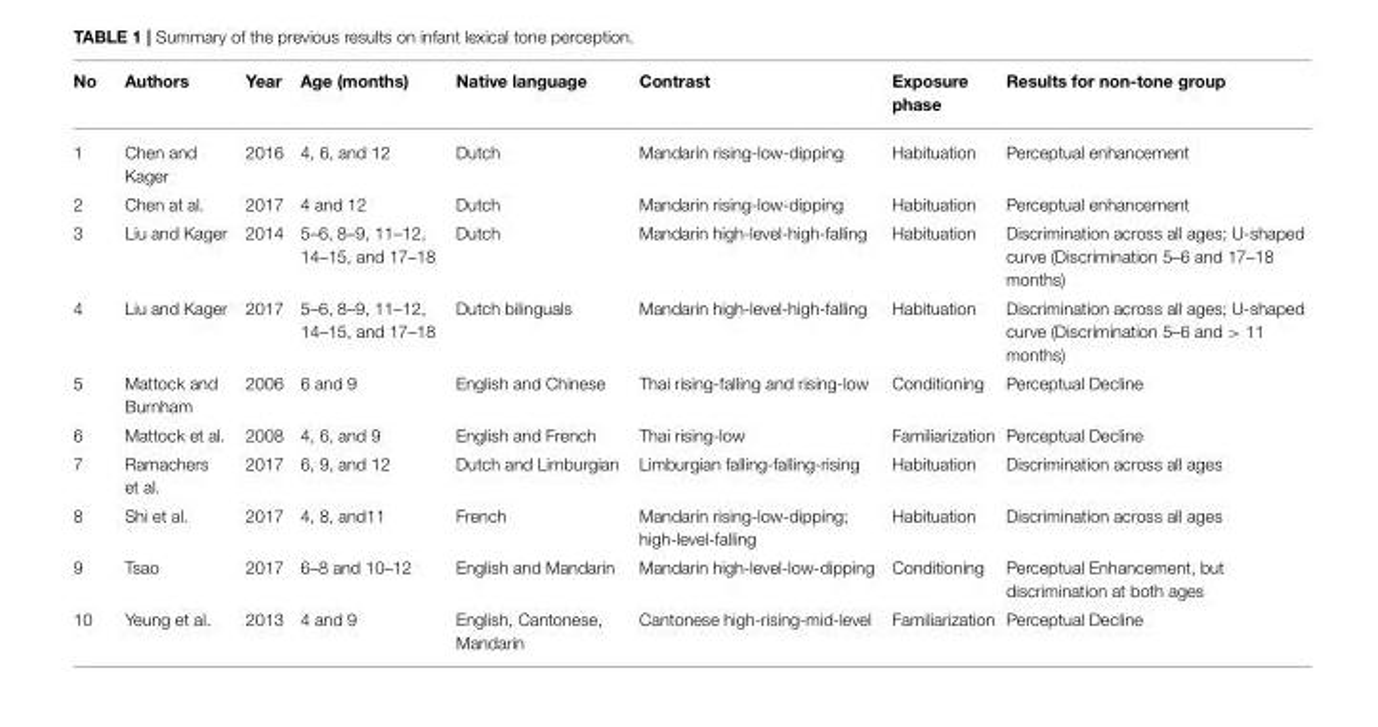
<table><thead><tr><td>No</td><td>Authors</td><td>Year</td><td>Age (months)</td><td>Native language</td><td>Contrast</td><td>Exposure phase</td><td>Results for non-tone group</td></tr></thead><tbody><tr><td>1</td><td>Chen and Kager</td><td>2016</td><td>4, 6, and 12</td><td>Dutch</td><td>Mandarin rising-low-dipping</td><td>Habituation</td><td>Perceptual enhancement</td></tr><tr><td>2</td><td>Chen at al.</td><td>2017</td><td>4 and 12</td><td>Dutch</td><td>Mandarin rising-low-dipping</td><td>Habituation</td><td>Perceptual enhancement</td></tr><tr><td>3</td><td>Liu and Kager</td><td>2014</td><td>5–6, 8–9, 11–12, 14–15, and 17–18</td><td>Dutch</td><td>Mandarin high-level-high-falling</td><td>Habituation</td><td>Discrimination across all ages; U-shaped curve (Discrimination 5–6 and 17–18 months)</td></tr><tr><td>4</td><td>Liu and Kager</td><td>2017</td><td>5–6, 8–9, 11–12, 14–15, and 17–18</td><td>Dutch bilinguals</td><td>Mandarin high-level-high-falling</td><td>Habituation</td><td>Discrimination across all ages; U-shaped curve (Discrimination 5–6 and &gt; 11 months)</td></tr><tr><td>5</td><td>Mattock and Burnham</td><td>2006</td><td>6 and 9</td><td>English and Chinese</td><td>Thai rising-falling and rising-low</td><td>Conditioning</td><td>Perceptual Decline</td></tr><tr><td>6</td><td>Mattock et al.</td><td>2008</td><td>4, 6, and 9</td><td>English and French</td><td>Thai rising-low</td><td>Familiarization</td><td>Perceptual Decline</td></tr><tr><td>7</td><td>Ramachers et al.</td><td>2017</td><td>6, 9, and 12</td><td>Dutch and Limburgian</td><td>Limburgian falling-falling-rising</td><td>Habituation</td><td>Discrimination across all ages</td></tr><tr><td>8</td><td>Shi et al.</td><td>2017</td><td>4, 8, and11</td><td>French</td><td>Mandarin rising-low-dipping; high-level-falling</td><td>Habituation</td><td>Discrimination across all ages</td></tr><tr><td>9</td><td>Tsao</td><td>2017</td><td>6–8 and 10–12</td><td>English and Mandarin</td><td>Mandarin high-level-low-dipping</td><td>Conditioning</td><td>Perceptual Enhancement, but discrimination at both ages</td></tr><tr><td>10</td><td>Yeung et al.</td><td>2013</td><td>4 and 9</td><td>English, Cantonese, Mandarin</td><td>Cantonese high-rising-mid-level</td><td>Familiarization</td><td>Perceptual Decline</td></tr></tbody></table>